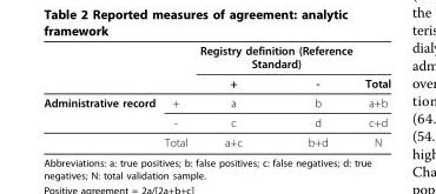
<table><thead><tr><td rowspan="2"></td><td rowspan="2"></td><td colspan="2">Registry definition (Reference Standard)</td><td rowspan="2">Total</td></tr><tr><td>+</td><td>-</td></tr></thead><tbody><tr><td rowspan="3">Administrative record</td><td>+</td><td>a</td><td>b</td><td>a+b</td></tr><tr><td>-</td><td>c</td><td>d</td><td>c+d</td></tr><tr><td>Total</td><td>a+c</td><td>b+d</td><td>N</td></tr></tbody></table>